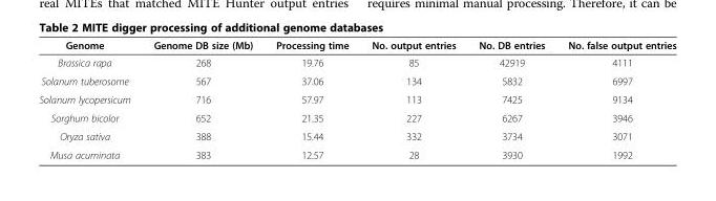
<table><thead><tr><td>Genome</td><td>Genome DB size (Mb)</td><td>Processing time</td><td>No. output entries</td><td>No. DB entries</td><td>No. false output entries</td></tr></thead><tbody><tr><td>Brassica rapa</td><td>268</td><td>19.76</td><td>85</td><td>42919</td><td>4111</td></tr><tr><td>Solanum tuberosome</td><td>567</td><td>37.06</td><td>134</td><td>5832</td><td>6997</td></tr><tr><td>Solanum lycopersicum</td><td>716</td><td>57.97</td><td>113</td><td>7425</td><td>9134</td></tr><tr><td>Sorghum bicolor</td><td>652</td><td>21.35</td><td>227</td><td>6267</td><td>3946</td></tr><tr><td>Oryza sativa</td><td>388</td><td>15.44</td><td>332</td><td>3734</td><td>3071</td></tr><tr><td>Musa acuminata</td><td>383</td><td>12.57</td><td>28</td><td>3930</td><td>1992</td></tr></tbody></table>